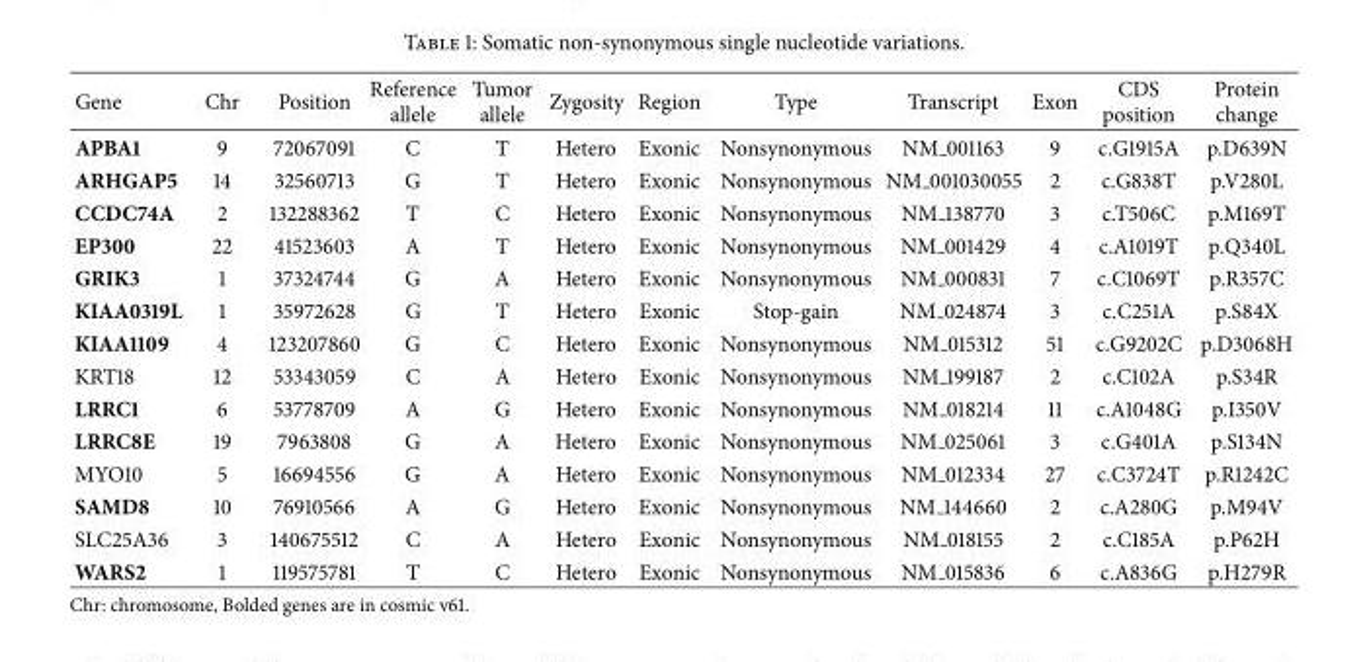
<table><thead><tr><td>Gene</td><td>Chr</td><td>Position</td><td>Reference allele</td><td>Tumor allele</td><td>Zygosity</td><td>Region</td><td>Type</td><td>Transcript</td><td>Exon</td><td>CDS position</td><td>Protein change</td></tr></thead><tbody><tr><td>APBA1</td><td>9</td><td>72067091</td><td>C</td><td>T</td><td>Hetero</td><td>Exonic</td><td>Nonsynonymous</td><td>NM 001163</td><td>9</td><td>c.G1915A</td><td>p.D639N</td></tr><tr><td>ARHGAP5</td><td>14</td><td>32560713</td><td>G</td><td>T</td><td>Hetero</td><td>Exonic</td><td>Nonsynonymous</td><td>NM 001030055</td><td>2</td><td>c.G838T</td><td>p.V280L</td></tr><tr><td>CCDC74A</td><td>2</td><td>132288362</td><td>T</td><td>C</td><td>Hetero</td><td>Exonic</td><td>Nonsynonymous</td><td>NM 138770</td><td>3</td><td>c.T506C</td><td>p.M169T</td></tr><tr><td>EP300</td><td>22</td><td>41523603</td><td>A</td><td>T</td><td>Hetero</td><td>Exonic</td><td>Nonsynonymous</td><td>NM 001429</td><td>4</td><td>c.A1019T</td><td>p.Q340L</td></tr><tr><td>GRIK3</td><td>1</td><td>37324744</td><td>G</td><td>A</td><td>Hetero</td><td>Exonic</td><td>Nonsynonymous</td><td>NM 000831</td><td>7</td><td>c.C1069T</td><td>p.R357C</td></tr><tr><td>KIAA0319L</td><td>1</td><td>35972628</td><td>G</td><td>T</td><td>Hetero</td><td>Exonic</td><td>Stop-gain</td><td>NM 024874</td><td>3</td><td>c.C251A</td><td>p.S84X</td></tr><tr><td>KIAA1109</td><td>4</td><td>123207860</td><td>G</td><td>C</td><td>Hetero</td><td>Exonic</td><td>Nonsynonymous</td><td>NM 015312</td><td>51</td><td>c.G9202C</td><td>p.D3068H</td></tr><tr><td>KRT18</td><td>12</td><td>53343059</td><td>C</td><td>A</td><td>Hetero</td><td>Exonic</td><td>Nonsynonymous</td><td>NM 199187</td><td>2</td><td>c.C102A</td><td>p.S34R</td></tr><tr><td>LRRC1</td><td>6</td><td>53778709</td><td>A</td><td>G</td><td>Hetero</td><td>Exonic</td><td>Nonsynonymous</td><td>NM 018214</td><td>11</td><td>c.A1048G</td><td>p.I350V</td></tr><tr><td>LRRC8E</td><td>19</td><td>7963808</td><td>G</td><td>A</td><td>Hetero</td><td>Exonic</td><td>Nonsynonymous</td><td>NM 025061</td><td>3</td><td>c.G401A</td><td>p.S134N</td></tr><tr><td>MYO10</td><td>5</td><td>16694556</td><td>G</td><td>A</td><td>Hetero</td><td>Exonic</td><td>Nonsynonymous</td><td>NM 012334</td><td>27</td><td>c.C3724T</td><td>p.R1242C</td></tr><tr><td>SAMD8</td><td>10</td><td>76910566</td><td>A</td><td>G</td><td>Hetero</td><td>Exonic</td><td>Nonsynonymous</td><td>NM 144660</td><td>2</td><td>c.A280G</td><td>p.M94V</td></tr><tr><td>SLC25A36</td><td>3</td><td>140675512</td><td>C</td><td>A</td><td>Hetero</td><td>Exonic</td><td>Nonsynonymous</td><td>NM 018155</td><td>2</td><td>c.C185A</td><td>p.P62H</td></tr><tr><td>WARS2</td><td>1</td><td>119575781</td><td>T</td><td>C</td><td>Hetero</td><td>Exonic</td><td>Nonsynonymous</td><td>NM 015836</td><td>6</td><td>c.A836G</td><td>p.H279R</td></tr></tbody></table>